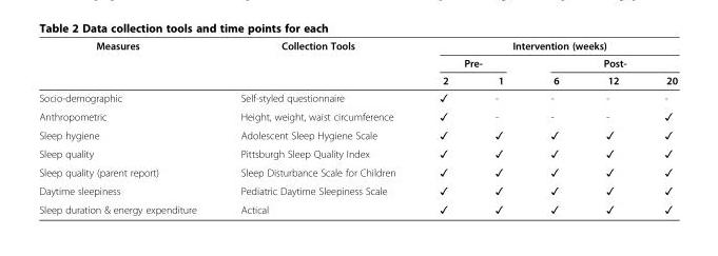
<table><thead><tr><td rowspan="3">Measures</td><td rowspan="3">Collection Tools</td><td colspan="5">Intervention (weeks)</td></tr><tr><td colspan="2">Pre-</td><td colspan="3">Post-</td></tr><tr><td>2</td><td>1</td><td>6</td><td>12</td><td>20</td></tr></thead><tbody><tr><td>Socio-demographic</td><td>Self-styled questionnaire</td><td>✓</td><td>-</td><td>-</td><td>-</td><td>-</td></tr><tr><td>Anthropometric</td><td>Height, weight, waist circumference</td><td>✓</td><td>-</td><td>-</td><td>-</td><td>✓</td></tr><tr><td>Sleep hygiene</td><td>Adolescent Sleep Hygiene Scale</td><td>✓</td><td>✓</td><td>✓</td><td>✓</td><td>✓</td></tr><tr><td>Sleep quality</td><td>Pittsburgh Sleep Quality Index</td><td>✓</td><td>✓</td><td>✓</td><td>✓</td><td>✓</td></tr><tr><td>Sleep quality (parent report)</td><td>Sleep Disturbance Scale for Children</td><td>✓</td><td>✓</td><td>✓</td><td>✓</td><td>✓</td></tr><tr><td>Daytime sleepiness</td><td>Pediatric Daytime Sleepiness Scale</td><td>✓</td><td>✓</td><td>✓</td><td>✓</td><td>✓</td></tr><tr><td>Sleep duration &amp; energy expenditure</td><td>Actical</td><td>✓</td><td>✓</td><td>✓</td><td>✓</td><td>✓</td></tr></tbody></table>